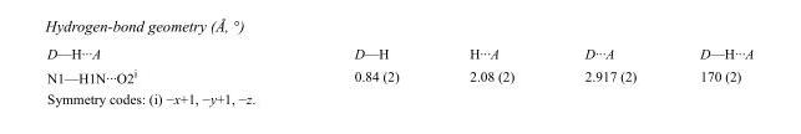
<table><tbody><tr><td>D—H···A</td><td>D—H</td><td>H···A</td><td>D···A</td><td>D—H···A</td></tr><tr><td>N1—H1N···O2<sup>i</sup></td><td>0.84 (2)</td><td>2.08 (2)</td><td>2.917 (2)</td><td>170 (2)</td></tr></tbody></table>